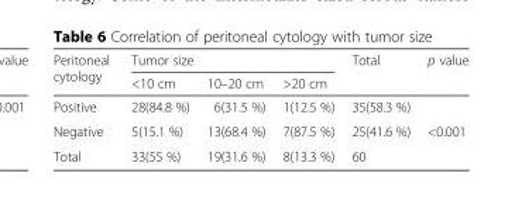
<table><thead><tr><td rowspan="2">Peritoneal cytology</td><td colspan="3">Tumor size</td><td rowspan="2">Total</td><td rowspan="2">p value</td></tr><tr><td>&lt;10 cm</td><td>10–20 cm</td><td>&gt;20 cm</td></tr></thead><tbody><tr><td>Positive</td><td>28(84.8 %)</td><td>6(31.5 %)</td><td>1(12.5 %)</td><td>35(58.3 %)</td><td></td></tr><tr><td>Negative</td><td>5(15.1 %)</td><td>13(68.4 %)</td><td>7(87.5 %)</td><td>25(41.6 %)</td><td>&lt;0.001</td></tr><tr><td>Total</td><td>33(55 %)</td><td>19(31.6 %)</td><td>8(13.3 %)</td><td>60</td><td></td></tr></tbody></table>